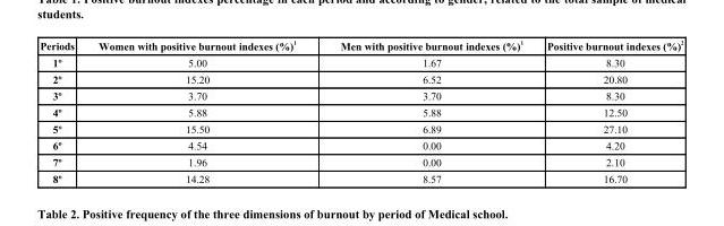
<table><thead><tr><td>Periods</td><td>Women with positive burnout indexes (%) <sup>1</sup></td><td>Men with positive burnout indexes (%) <sup>1</sup></td><td>Positive burnout indexes (%) <sup>2</sup></td></tr></thead><tbody><tr><td>1º</td><td>5.00</td><td>1.67</td><td>8.30</td></tr><tr><td>2º</td><td>15.20</td><td>6.52</td><td>20.80</td></tr><tr><td>3º</td><td>3.70</td><td>3.70</td><td>8.30</td></tr><tr><td>4º</td><td>5.88</td><td>5.88</td><td>12.50</td></tr><tr><td>5º</td><td>15.50</td><td>6.89</td><td>27.10</td></tr><tr><td>6º</td><td>4.54</td><td>0.00</td><td>4.20</td></tr><tr><td>7º</td><td>1.96</td><td>0.00</td><td>2.10</td></tr><tr><td>8º</td><td>14.28</td><td>8.57</td><td>16.70</td></tr></tbody></table>